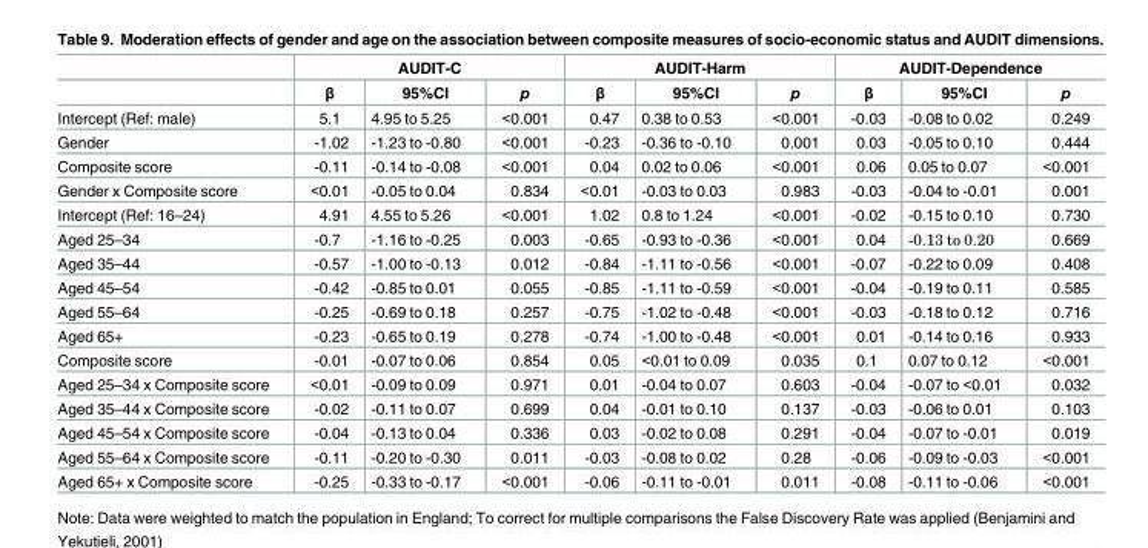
<table><thead><tr><td rowspan="2"></td><td colspan="3">AUDIT-C</td><td colspan="3">AUDIT-Harm</td><td colspan="3">AUDIT-Dependence</td></tr><tr><td>β</td><td>95%CI</td><td>p</td><td>β</td><td>95%CI</td><td>p</td><td>β</td><td>95%CI</td><td>p</td></tr></thead><tbody><tr><td>Intercept (Ref: male)</td><td>5.1</td><td>4.95 to 5.25</td><td>&lt;0.001</td><td>0.47</td><td>0.38 to 0.53</td><td>&lt;0.001</td><td>-0.03</td><td>-0.08 to 0.02</td><td>0.249</td></tr><tr><td>Gender</td><td>-1.02</td><td>-1.23 to -0.80</td><td>&lt;0.001</td><td>-0.23</td><td>-0.36 to -0.10</td><td>0.001</td><td>0.03</td><td>-0.05 to 0.10</td><td>0.444</td></tr><tr><td>Composite score</td><td>-0.11</td><td>-0.14 to -0.08</td><td>&lt;0.001</td><td>0.04</td><td>0.02 to 0.06</td><td>&lt;0.001</td><td>0.06</td><td>0.05 to 0.07</td><td>&lt;0.001</td></tr><tr><td>Gender x Composite score</td><td>&lt;0.01</td><td>-0.05 to 0.04</td><td>0.834</td><td>&lt;0.01</td><td>-0.03 to 0.03</td><td>0.983</td><td>-0.03</td><td>-0.04 to -0.01</td><td>0.001</td></tr><tr><td>Intercept (Ref: 16–24)</td><td>4.91</td><td>4.55 to 5.26</td><td>&lt;0.001</td><td>1.02</td><td>0.8 to 1.24</td><td>&lt;0.001</td><td>-0.02</td><td>-0.15 to 0.10</td><td>0.730</td></tr><tr><td>Aged 25–34</td><td>-0.7</td><td>-1.16 to -0.25</td><td>0.003</td><td>-0.65</td><td>-0.93 to -0.36</td><td>&lt;0.001</td><td>0.04</td><td>-0.13 to 0.20</td><td>0.669</td></tr><tr><td>Aged 35–44</td><td>-0.57</td><td>-1.00 to -0.13</td><td>0.012</td><td>-0.84</td><td>-1.11 to -0.56</td><td>&lt;0.001</td><td>-0.07</td><td>-0.22 to 0.09</td><td>0.408</td></tr><tr><td>Aged 45–54</td><td>-0.42</td><td>-0.85 to 0.01</td><td>0.055</td><td>-0.85</td><td>-1.11 to -0.59</td><td>&lt;0.001</td><td>-0.04</td><td>-0.19 to 0.11</td><td>0.585</td></tr><tr><td>Aged 55–64</td><td>-0.25</td><td>-0.69 to 0.18</td><td>0.257</td><td>-0.75</td><td>-1.02 to -0.48</td><td>&lt;0.001</td><td>-0.03</td><td>-0.18 to 0.12</td><td>0.716</td></tr><tr><td>Aged 65+</td><td>-0.23</td><td>-0.65 to 0.19</td><td>0.278</td><td>-0.74</td><td>-1.00 to -0.48</td><td>&lt;0.001</td><td>0.01</td><td>-0.14 to 0.16</td><td>0.933</td></tr><tr><td>Composite score</td><td>-0.01</td><td>-0.07 to 0.06</td><td>0.854</td><td>0.05</td><td>&lt;0.01 to 0.09</td><td>0.035</td><td>0.1</td><td>0.07 to 0.12</td><td>&lt;0.001</td></tr><tr><td>Aged 25–34 x Composite score</td><td>&lt;0.01</td><td>-0.09 to 0.09</td><td>0.971</td><td>0.01</td><td>-0.04 to 0.07</td><td>0.603</td><td>-0.04</td><td>-0.07 to &lt;0.01</td><td>0.032</td></tr><tr><td>Aged 35–44 x Composite score</td><td>-0.02</td><td>-0.11 to 0.07</td><td>0.699</td><td>0.04</td><td>-0.01 to 0.10</td><td>0.137</td><td>-0.03</td><td>-0.06 to 0.01</td><td>0.103</td></tr><tr><td>Aged 45–54 x Composite score</td><td>-0.04</td><td>-0.13 to 0.04</td><td>0.336</td><td>0.03</td><td>-0.02 to 0.08</td><td>0.291</td><td>-0.04</td><td>-0.07 to -0.01</td><td>0.019</td></tr><tr><td>Aged 55–64 x Composite score</td><td>-0.11</td><td>-0.20 to -0.30</td><td>0.011</td><td>-0.03</td><td>-0.08 to 0.02</td><td>0.28</td><td>-0.06</td><td>-0.09 to -0.03</td><td>&lt;0.001</td></tr><tr><td>Aged 65+ x Composite score</td><td>-0.25</td><td>-0.33 to -0.17</td><td>&lt;0.001</td><td>-0.06</td><td>-0.11 to -0.01</td><td>0.011</td><td>-0.08</td><td>-0.11 to -0.06</td><td>&lt;0.001</td></tr></tbody></table>